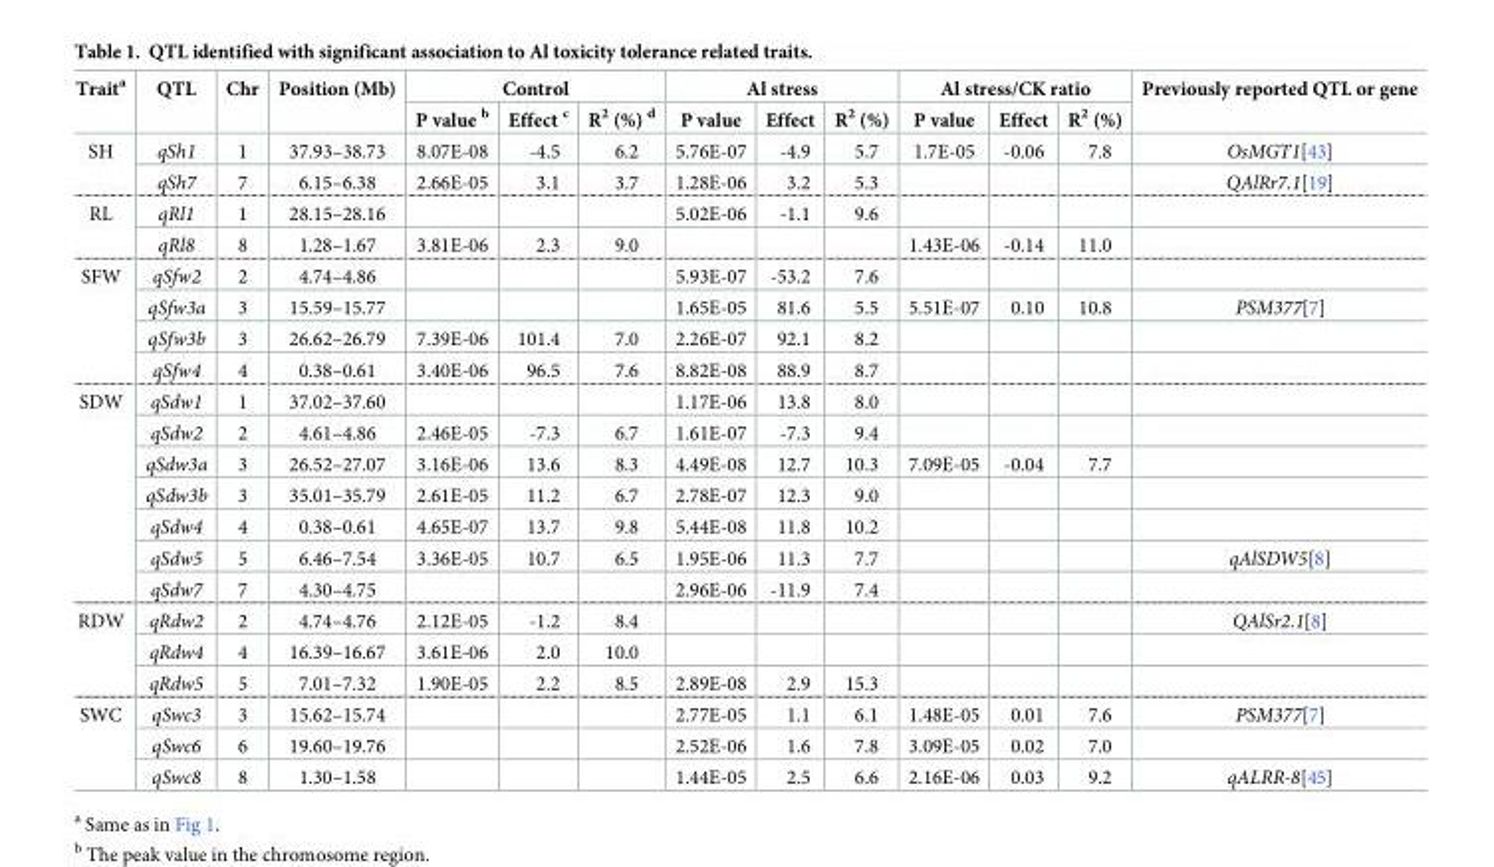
<table><thead><tr><td rowspan="2">Trait<sup>a</sup></td><td rowspan="2">QTL</td><td rowspan="2">Chr</td><td rowspan="2">Position (Mb)</td><td colspan="3">Control</td><td colspan="3">Al stress</td><td colspan="3">Al stress/CK ratio</td><td rowspan="2">Previously reported QTL or gene</td></tr><tr><td>P value <sup>b</sup></td><td>Effect <sup>c</sup></td><td>R<sup>2</sup> (%) <sup>d</sup></td><td>P value</td><td>Effect</td><td>R<sup>2</sup> (%)</td><td>P value</td><td>Effect</td><td>R<sup>2</sup> (%)</td></tr></thead><tbody><tr><td rowspan="2">SH</td><td>qSh1</td><td>1</td><td>37.93–38.73</td><td>8.07E-08</td><td>-4.5</td><td>6.2</td><td>5.76E-07</td><td>-4.9</td><td>5.7</td><td>1.7E-05</td><td>-0.06</td><td>7.8</td><td>OsMGT1[43]</td></tr><tr><td>qSh7</td><td>7</td><td>6.15–6.38</td><td>2.66E-05</td><td>3.1</td><td>3.7</td><td>1.28E-06</td><td>3.2</td><td>5.3</td><td></td><td></td><td></td><td>QAlRr7.1[19]</td></tr><tr><td rowspan="2">RL</td><td>qRl1</td><td>1</td><td>28.15–28.16</td><td></td><td></td><td></td><td>5.02E-06</td><td>-1.1</td><td>9.6</td><td></td><td></td><td></td><td></td></tr><tr><td>qRl8</td><td>8</td><td>1.28–1.67</td><td>3.81E-06</td><td>2.3</td><td>9.0</td><td></td><td></td><td></td><td>1.43E-06</td><td>-0.14</td><td>11.0</td><td></td></tr><tr><td rowspan="4">SFW</td><td>qSfw2</td><td>2</td><td>4.74–4.86</td><td></td><td></td><td></td><td>5.93E-07</td><td>-53.2</td><td>7.6</td><td></td><td></td><td></td><td></td></tr><tr><td>qSfw3a</td><td>3</td><td>15.59–15.77</td><td></td><td></td><td></td><td>1.65E-05</td><td>81.6</td><td>5.5</td><td>5.51E-07</td><td>0.10</td><td>10.8</td><td>PSM377[7]</td></tr><tr><td>qSfw3b</td><td>3</td><td>26.62–26.79</td><td>7.39E-06</td><td>101.4</td><td>7.0</td><td>2.26E-07</td><td>92.1</td><td>8.2</td><td></td><td></td><td></td><td></td></tr><tr><td>qSfw4</td><td>4</td><td>0.38–0.61</td><td>3.40E-06</td><td>96.5</td><td>7.6</td><td>8.82E-08</td><td>88.9</td><td>8.7</td><td></td><td></td><td></td><td></td></tr><tr><td rowspan="7">SDW</td><td>qSdw1</td><td>1</td><td>37.02–37.60</td><td></td><td></td><td></td><td>1.17E-06</td><td>13.8</td><td>8.0</td><td></td><td></td><td></td><td></td></tr><tr><td>qSdw2</td><td>2</td><td>4.61–4.86</td><td>2.46E-05</td><td>-7.3</td><td>6.7</td><td>1.61E-07</td><td>-7.3</td><td>9.4</td><td></td><td></td><td></td><td></td></tr><tr><td>qSdw3a</td><td>3</td><td>26.52–27.07</td><td>3.16E-06</td><td>13.6</td><td>8.3</td><td>4.49E-08</td><td>12.7</td><td>10.3</td><td>7.09E-05</td><td>-0.04</td><td>7.7</td><td></td></tr><tr><td>qSdw3b</td><td>3</td><td>35.01–35.79</td><td>2.61E-05</td><td>11.2</td><td>6.7</td><td>2.78E-07</td><td>12.3</td><td>9.0</td><td></td><td></td><td></td><td></td></tr><tr><td>qSdw4</td><td>4</td><td>0.38–0.61</td><td>4.65E-07</td><td>13.7</td><td>9.8</td><td>5.44E-08</td><td>11.8</td><td>10.2</td><td></td><td></td><td></td><td></td></tr><tr><td>qSdw5</td><td>5</td><td>6.46–7.54</td><td>3.36E-05</td><td>10.7</td><td>6.5</td><td>1.95E-06</td><td>11.3</td><td>7.7</td><td></td><td></td><td></td><td>qAlSDW5[8]</td></tr><tr><td>qSdw7</td><td>7</td><td>4.30–4.75</td><td></td><td></td><td></td><td>2.96E-06</td><td>-11.9</td><td>7.4</td><td></td><td></td><td></td><td></td></tr><tr><td rowspan="3">RDW</td><td>qRdw2</td><td>2</td><td>4.74–4.76</td><td>2.12E-05</td><td>-1.2</td><td>8.4</td><td></td><td></td><td></td><td></td><td></td><td></td><td>QAlSr2.1[8]</td></tr><tr><td>qRdw4</td><td>4</td><td>16.39–16.67</td><td>3.61E-06</td><td>2.0</td><td>10.0</td><td></td><td></td><td></td><td></td><td></td><td></td><td></td></tr><tr><td>qRdw5</td><td>5</td><td>7.01–7.32</td><td>1.90E-05</td><td>2.2</td><td>8.5</td><td>2.89E-08</td><td>2.9</td><td>15.3</td><td></td><td></td><td></td><td></td></tr><tr><td rowspan="3">SWC</td><td>qSwc3</td><td>3</td><td>15.62–15.74</td><td></td><td></td><td></td><td>2.77E-05</td><td>1.1</td><td>6.1</td><td>1.48E-05</td><td>0.01</td><td>7.6</td><td>PSM377[7]</td></tr><tr><td>qSwc6</td><td>6</td><td>19.60–19.76</td><td></td><td></td><td></td><td>2.52E-06</td><td>1.6</td><td>7.8</td><td>3.09E-05</td><td>0.02</td><td>7.0</td><td></td></tr><tr><td>qSwc8</td><td>8</td><td>1.30–1.58</td><td></td><td></td><td></td><td>1.44E-05</td><td>2.5</td><td>6.6</td><td>2.16E-06</td><td>0.03</td><td>9.2</td><td>qALRR-8[45]</td></tr></tbody></table>